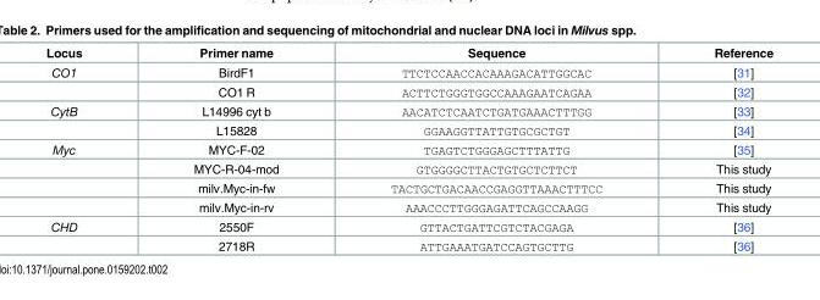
<table><thead><tr><td>Locus</td><td>Primer name</td><td>Sequence</td><td>Reference</td></tr></thead><tbody><tr><td rowspan="2">CO1</td><td>BirdF1</td><td>TTCTCCAACCACAAAGACATTGGCAC</td><td>[31]</td></tr><tr><td>CO1 R</td><td>ACTTCTGGGTGGCCAAAGAATCAGAA</td><td>[32]</td></tr><tr><td rowspan="2">CytB</td><td>L14996 cyt b</td><td>AACATCTCAATCTGATGAAACTTTGG</td><td>[33]</td></tr><tr><td>L15828</td><td>GGAAGGTTATTGTGCGCTGT</td><td>[34]</td></tr><tr><td rowspan="4">Myc</td><td>MYC-F-02</td><td>TGAGTCTGGGAGCTTTATTG</td><td>[35]</td></tr><tr><td>MYC-R-04-mod</td><td>GTGGGGCTTACTGTGCTCTTCT</td><td>This study</td></tr><tr><td>milv.Myc-in-fw</td><td>TACTGCTGACAACCGAGGTTAAACTTTCC</td><td>This study</td></tr><tr><td>milv.Myc-in-rv</td><td>AAACCCTTGGGAGATTCAGCCAAGG</td><td>This study</td></tr><tr><td rowspan="2">CHD</td><td>2550F</td><td>GTTACTGATTCGTCTACGAGA</td><td>[36]</td></tr><tr><td>2718R</td><td>ATTGAAATGATCCAGTGCTTG</td><td>[36]</td></tr></tbody></table>